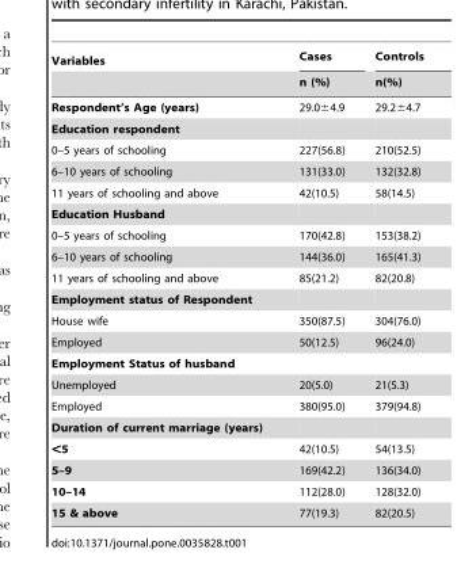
<table><thead><tr><td rowspan="2">Variables</td><td rowspan="2">Cases n (%)</td><td rowspan="2">Controls n(%)</td></tr><tr></tr></thead><tbody><tr><td>Respondent’s Age (years)</td><td>29.0±4.9</td><td>29.2±4.7</td></tr><tr><td colspan="3">Education respondent</td></tr><tr><td>0–5 years of schooling</td><td>227(56.8)</td><td>210(52.5)</td></tr><tr><td>6–10 years of schooling</td><td>131(33.0)</td><td>132(32.8)</td></tr><tr><td>11 years of schooling and above</td><td>42(10.5)</td><td>58(14.5)</td></tr><tr><td colspan="3">Education Husband</td></tr><tr><td>0–5 years of schooling</td><td>170(42.8)</td><td>153(38.2)</td></tr><tr><td>6–10 years of schooling</td><td>144(36.0)</td><td>165(41.3)</td></tr><tr><td>11 years of schooling and above</td><td>85(21.2)</td><td>82(20.8)</td></tr><tr><td colspan="3">Employment status of Respondent</td></tr><tr><td>House wife</td><td>350(87.5)</td><td>304(76.0)</td></tr><tr><td>Employed</td><td>50(12.5)</td><td>96(24.0)</td></tr><tr><td colspan="3">Employment Status of husband</td></tr><tr><td>Unemployed</td><td>20(5.0)</td><td>21(5.3)</td></tr><tr><td>Employed</td><td>380(95.0)</td><td>379(94.8)</td></tr><tr><td colspan="3">Duration of current marriage (years)</td></tr><tr><td>&lt;5</td><td>42(10.5)</td><td>54(13.5)</td></tr><tr><td>5–9</td><td>169(42.2)</td><td>136(34.0)</td></tr><tr><td>10–14</td><td>112(28.0)</td><td>128(32.0)</td></tr><tr><td>15 &amp; above</td><td>77(19.3)</td><td>82(20.5)</td></tr></tbody></table>